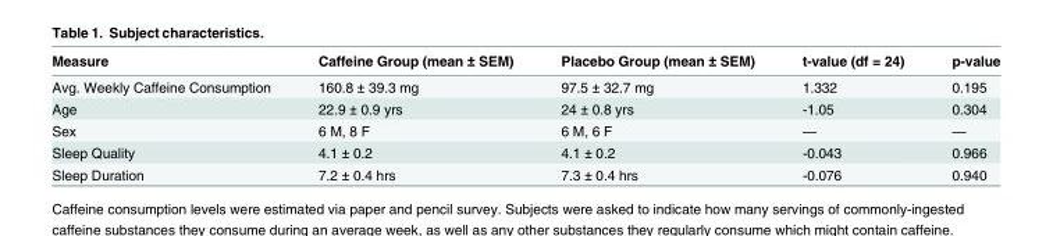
<table><thead><tr><td>Measure</td><td>Caffeine Group (mean ± SEM)</td><td>Placebo Group (mean ± SEM)</td><td>t-value (df = 24)</td><td>p-value</td></tr></thead><tbody><tr><td>Avg. Weekly Caffeine Consumption</td><td>160.8 ± 39.3 mg</td><td>97.5 ± 32.7 mg</td><td>1.332</td><td>0.195</td></tr><tr><td>Age</td><td>22.9 ± 0.9 yrs</td><td>24 ± 0.8 yrs</td><td>-1.05</td><td>0.304</td></tr><tr><td>Sex</td><td>6 M, 8 F</td><td>6 M, 6 F</td><td>—</td><td>—</td></tr><tr><td>Sleep Quality</td><td>4.1 ± 0.2</td><td>4.1 ± 0.2</td><td>-0.043</td><td>0.966</td></tr><tr><td>Sleep Duration</td><td>7.2 ± 0.4 hrs</td><td>7.3 ± 0.4 hrs</td><td>-0.076</td><td>0.940</td></tr></tbody></table>